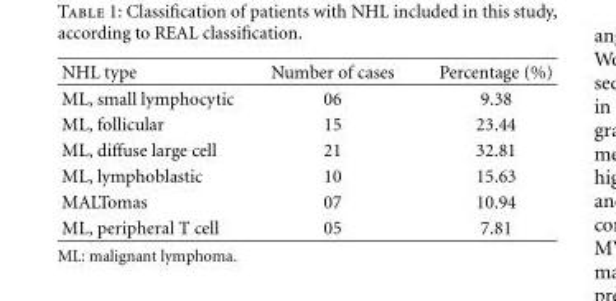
<table><thead><tr><td>NHL type</td><td>Number of cases</td><td>Percentage (%)</td></tr></thead><tbody><tr><td>ML, small lymphocytic</td><td>06</td><td>9.38</td></tr><tr><td>ML, follicular</td><td>15</td><td>23.44</td></tr><tr><td>ML, diffuse large cell</td><td>21</td><td>32.81</td></tr><tr><td>ML, lymphoblastic</td><td>10</td><td>15.63</td></tr><tr><td>MALTomas</td><td>07</td><td>10.94</td></tr><tr><td>ML, peripheral T cell</td><td>05</td><td>7.81</td></tr></tbody></table>